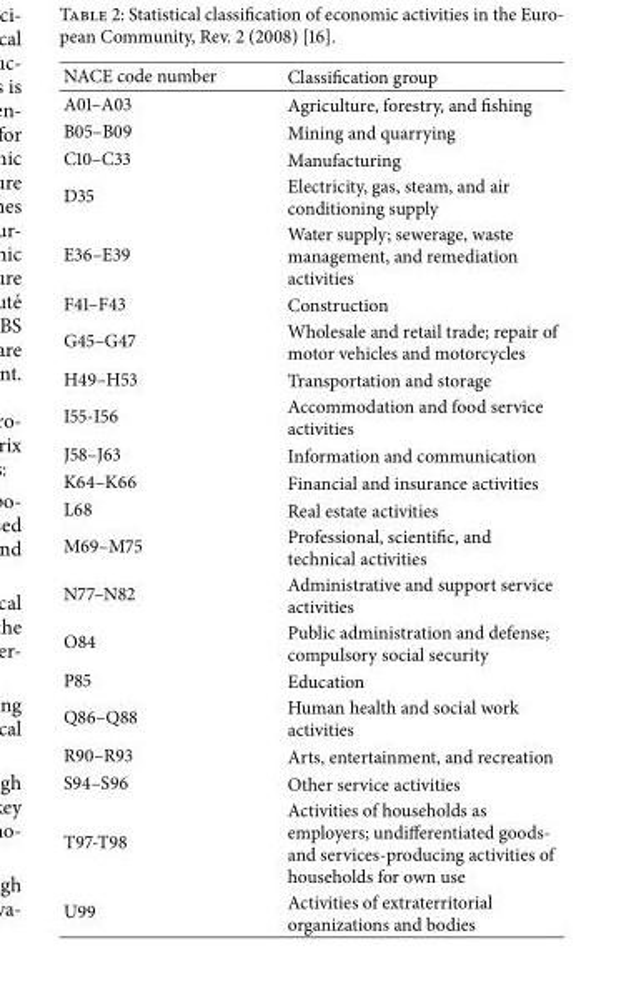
<table><thead><tr><td>NACE code number</td><td>Classification group</td></tr></thead><tbody><tr><td>A01–A03</td><td>Agriculture, forestry, and fishing</td></tr><tr><td>B05–B09</td><td>Mining and quarrying</td></tr><tr><td>C10–C33</td><td>Manufacturing</td></tr><tr><td>D35</td><td>Electricity, gas, steam, and air conditioning supply</td></tr><tr><td>E36–E39</td><td>Water supply; sewerage, waste management, and remediation activities</td></tr><tr><td>F41–F43</td><td>Construction</td></tr><tr><td>G45–G47</td><td>Wholesale and retail trade; repair of motor vehicles and motorcycles</td></tr><tr><td>H49–H53</td><td>Transportation and storage</td></tr><tr><td>I55-I56</td><td>Accommodation and food service activities</td></tr><tr><td>J58–J63</td><td>Information and communication</td></tr><tr><td>K64–K66</td><td>Financial and insurance activities</td></tr><tr><td>L68</td><td>Real estate activities</td></tr><tr><td>M69–M75</td><td>Professional, scientific, and technical activities</td></tr><tr><td>N77–N82</td><td>Administrative and support service activities</td></tr><tr><td>O84</td><td>Public administration and defense; compulsory social security</td></tr><tr><td>P85</td><td>Education</td></tr><tr><td>Q86–Q88</td><td>Human health and social work activities</td></tr><tr><td>R90–R93</td><td>Arts, entertainment, and recreation</td></tr><tr><td>S94–S96</td><td>Other service activities</td></tr><tr><td>T97-T98</td><td>Activities of households as employers; undifferentiated goods- and services-producing activities of households for own use</td></tr><tr><td>U99</td><td>Activities of extraterritorial organizations and bodies</td></tr></tbody></table>